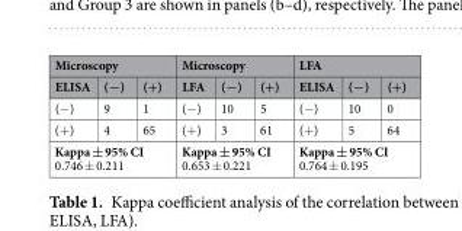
<table><thead><tr><td colspan="3">Microscopy</td><td colspan="3">Microscopy</td><td colspan="3">LFA</td></tr><tr><td>ELISA</td><td>(−)</td><td>(+)</td><td>LFA</td><td>(−)</td><td>(+)</td><td>ELISA</td><td>(−)</td><td>(+)</td></tr></thead><tbody><tr><td>(−)</td><td>9</td><td>1</td><td>(−)</td><td>10</td><td>5</td><td>(−)</td><td>10</td><td>0</td></tr><tr><td>(+)</td><td>4</td><td>65</td><td>(+)</td><td>3</td><td>61</td><td>(+)</td><td>5</td><td>64</td></tr><tr><td colspan="3">Kappa ± 95% CI 0.746 ± 0.211</td><td colspan="3">Kappa ± 95% CI 0.653 ± 0.221</td><td colspan="3">Kappa ± 95% CI 0.764 ± 0.195</td></tr></tbody></table>